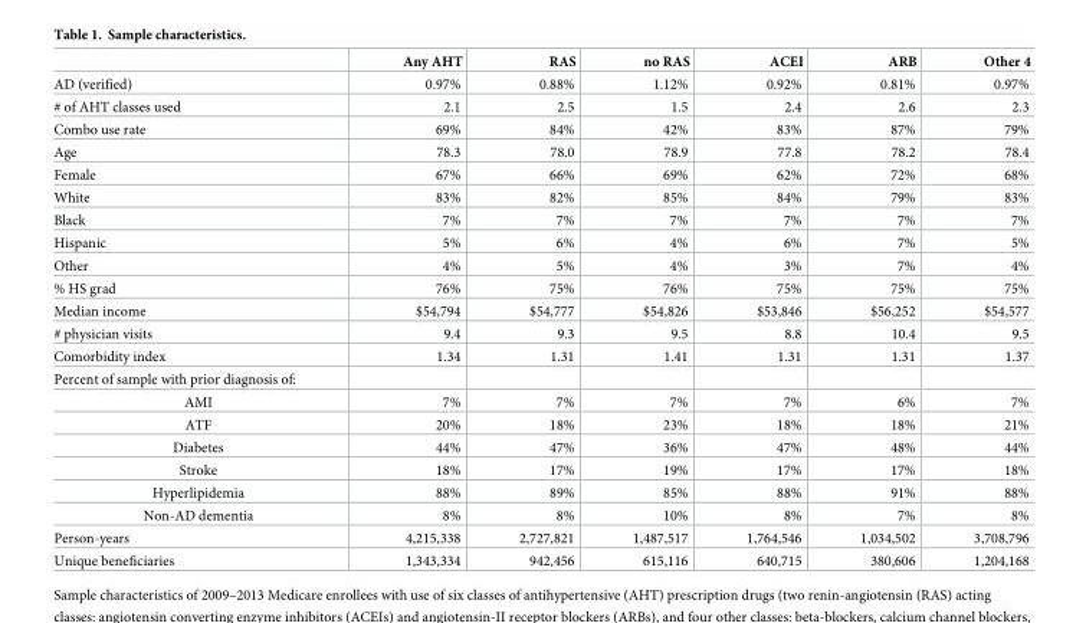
<table><thead><tr><td></td><td>Any AHT</td><td>RAS</td><td>no RAS</td><td>ACEI</td><td>ARB</td><td>Other 4</td></tr></thead><tbody><tr><td>AD (verified)</td><td>0.97%</td><td>0.88%</td><td>1.12%</td><td>0.92%</td><td>0.81%</td><td>0.97%</td></tr><tr><td># of AHT classes used</td><td>2.1</td><td>2.5</td><td>1.5</td><td>2.4</td><td>2.6</td><td>2.3</td></tr><tr><td>Combo use rate</td><td>69%</td><td>84%</td><td>42%</td><td>83%</td><td>87%</td><td>79%</td></tr><tr><td>Age</td><td>78.3</td><td>78.0</td><td>78.9</td><td>77.8</td><td>78.2</td><td>78.4</td></tr><tr><td>Female</td><td>67%</td><td>66%</td><td>69%</td><td>62%</td><td>72%</td><td>68%</td></tr><tr><td>White</td><td>83%</td><td>82%</td><td>85%</td><td>84%</td><td>79%</td><td>83%</td></tr><tr><td>Black</td><td>7%</td><td>7%</td><td>7%</td><td>7%</td><td>7%</td><td>7%</td></tr><tr><td>Hispanic</td><td>5%</td><td>6%</td><td>4%</td><td>6%</td><td>7%</td><td>5%</td></tr><tr><td>Other</td><td>4%</td><td>5%</td><td>4%</td><td>3%</td><td>7%</td><td>4%</td></tr><tr><td>% HS grad</td><td>76%</td><td>75%</td><td>76%</td><td>75%</td><td>75%</td><td>75%</td></tr><tr><td>Median income</td><td>$54,794</td><td>$54,777</td><td>$54,826</td><td>$53,846</td><td>$56,252</td><td>$54,577</td></tr><tr><td># physician visits</td><td>9.4</td><td>9.3</td><td>9.5</td><td>8.8</td><td>10.4</td><td>9.5</td></tr><tr><td>Comorbidity index</td><td>1.34</td><td>1.31</td><td>1.41</td><td>1.31</td><td>1.31</td><td>1.37</td></tr><tr><td colspan="7">Percent of sample with prior diagnosis of:</td></tr><tr><td>AMI</td><td>7%</td><td>7%</td><td>7%</td><td>7%</td><td>6%</td><td>7%</td></tr><tr><td>ATF</td><td>20%</td><td>18%</td><td>23%</td><td>18%</td><td>18%</td><td>21%</td></tr><tr><td>Diabetes</td><td>44%</td><td>47%</td><td>36%</td><td>47%</td><td>48%</td><td>44%</td></tr><tr><td>Stroke</td><td>18%</td><td>17%</td><td>19%</td><td>17%</td><td>17%</td><td>18%</td></tr><tr><td>Hyperlipidemia</td><td>88%</td><td>89%</td><td>85%</td><td>88%</td><td>91%</td><td>88%</td></tr><tr><td>Non-AD dementia</td><td>8%</td><td>8%</td><td>10%</td><td>8%</td><td>7%</td><td>8%</td></tr><tr><td>Person-years</td><td>4,215,338</td><td>2,727,821</td><td>1,487,517</td><td>1,764,546</td><td>1,034,502</td><td>3,708,796</td></tr><tr><td>Unique beneficiaries</td><td>1,343,334</td><td>942,456</td><td>615,116</td><td>640,715</td><td>380,606</td><td>1,204,168</td></tr></tbody></table>